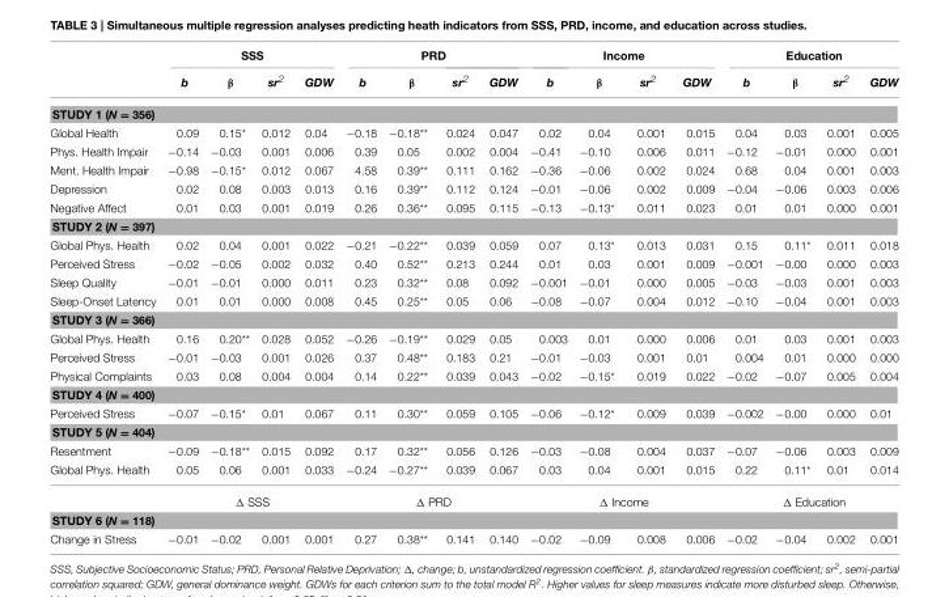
<table><thead><tr><td rowspan="2"></td><td colspan="4">SSS</td><td colspan="4">PRD</td><td colspan="4">Income</td><td colspan="4">Education</td></tr><tr><td>b</td><td>β</td><td>sr<sup>2</sup></td><td>GDW</td><td>b</td><td>β</td><td>sr<sup>2</sup></td><td>GDW</td><td>b</td><td>β</td><td>sr<sup>2</sup></td><td>GDW</td><td>b</td><td>β</td><td>sr<sup>2</sup></td><td>GDW</td></tr></thead><tbody><tr><td colspan="17">STUDY 1 (N = 356)</td></tr><tr><td>Global Health</td><td>0.09</td><td>0.15*</td><td>0.012</td><td>0.04</td><td>−0.18</td><td>−0.18**</td><td>0.024</td><td>0.047</td><td>0.02</td><td>0.04</td><td>0.001</td><td>0.015</td><td>0.04</td><td>0.03</td><td>0.001</td><td>0.005</td></tr><tr><td>Phys. Health Impair</td><td>−0.14</td><td>−0.03</td><td>0.001</td><td>0.006</td><td>0.39</td><td>0.05</td><td>0.002</td><td>0.004</td><td>−0.41</td><td>−0.10</td><td>0.006</td><td>0.011</td><td>−0.12</td><td>−0.01</td><td>0.000</td><td>0.001</td></tr><tr><td>Ment. Health Impair</td><td>−0.98</td><td>−0.15*</td><td>0.012</td><td>0.067</td><td>4.58</td><td>0.39**</td><td>0.111</td><td>0.162</td><td>−0.36</td><td>−0.06</td><td>0.002</td><td>0.024</td><td>0.68</td><td>0.04</td><td>0.001</td><td>0.003</td></tr><tr><td>Depression</td><td>0.02</td><td>0.08</td><td>0.003</td><td>0.013</td><td>0.16</td><td>0.39**</td><td>0.112</td><td>0.124</td><td>−0.01</td><td>−0.06</td><td>0.002</td><td>0.009</td><td>−0.04</td><td>−0.06</td><td>0.003</td><td>0.006</td></tr><tr><td>Negative Affect</td><td>0.01</td><td>0.03</td><td>0.001</td><td>0.019</td><td>0.26</td><td>0.36**</td><td>0.095</td><td>0.115</td><td>−0.13</td><td>−0.13*</td><td>0.011</td><td>0.023</td><td>0.01</td><td>0.01</td><td>0.000</td><td>0.001</td></tr><tr><td colspan="17">STUDY 2 (N = 397)</td></tr><tr><td>Global Phys. Health</td><td>0.02</td><td>0.04</td><td>0.001</td><td>0.022</td><td>−0.21</td><td>−0.22**</td><td>0.039</td><td>0.059</td><td>0.07</td><td>0.13*</td><td>0.013</td><td>0.031</td><td>0.15</td><td>0.11*</td><td>0.011</td><td>0.018</td></tr><tr><td>Perceived Stress</td><td>−0.02</td><td>−0.05</td><td>0.002</td><td>0.032</td><td>0.40</td><td>0.52**</td><td>0.213</td><td>0.244</td><td>0.01</td><td>0.03</td><td>0.001</td><td>0.009</td><td>−0.001</td><td>−0.00</td><td>0.000</td><td>0.003</td></tr><tr><td>Sleep Quality</td><td>−0.01</td><td>−0.01</td><td>0.000</td><td>0.011</td><td>0.23</td><td>0.32**</td><td>0.08</td><td>0.092</td><td>−0.001</td><td>−0.01</td><td>0.000</td><td>0.005</td><td>−0.03</td><td>−0.03</td><td>0.001</td><td>0.003</td></tr><tr><td>Sleep-Onset Latency</td><td>0.01</td><td>0.01</td><td>0.000</td><td>0.008</td><td>0.45</td><td>0.25**</td><td>0.05</td><td>0.06</td><td>−0.08</td><td>−0.07</td><td>0.004</td><td>0.012</td><td>−0.10</td><td>−0.04</td><td>0.001</td><td>0.003</td></tr><tr><td colspan="17">STUDY 3 (N = 366)</td></tr><tr><td>Global Phys. Health</td><td>0.16</td><td>0.20**</td><td>0.028</td><td>0.052</td><td>−0.26</td><td>−0.19**</td><td>0.029</td><td>0.05</td><td>0.003</td><td>0.01</td><td>0.000</td><td>0.006</td><td>0.01</td><td>0.03</td><td>0.001</td><td>0.003</td></tr><tr><td>Perceived Stress</td><td>−0.01</td><td>−0.03</td><td>0.001</td><td>0.026</td><td>0.37</td><td>0.48**</td><td>0.183</td><td>0.21</td><td>−0.01</td><td>−0.03</td><td>0.001</td><td>0.01</td><td>0.004</td><td>0.01</td><td>0.000</td><td>0.000</td></tr><tr><td>Physical Complaints</td><td>0.03</td><td>0.08</td><td>0.004</td><td>0.004</td><td>0.14</td><td>0.22**</td><td>0.039</td><td>0.043</td><td>−0.02</td><td>−0.15*</td><td>0.019</td><td>0.022</td><td>−0.02</td><td>−0.07</td><td>0.005</td><td>0.004</td></tr><tr><td colspan="17">STUDY 4 (N = 400)</td></tr><tr><td>Perceived Stress</td><td>−0.07</td><td>−0.15*</td><td>0.01</td><td>0.067</td><td>0.11</td><td>0.30**</td><td>0.059</td><td>0.105</td><td>−0.06</td><td>−0.12*</td><td>0.009</td><td>0.039</td><td>−0.002</td><td>−0.00</td><td>0.000</td><td>0.01</td></tr><tr><td colspan="17">STUDY 5 (N = 404)</td></tr><tr><td>Resentment</td><td>−0.09</td><td>−0.18**</td><td>0.015</td><td>0.092</td><td>0.17</td><td>0.32**</td><td>0.056</td><td>0.126</td><td>−0.03</td><td>−0.08</td><td>0.004</td><td>0.037</td><td>−0.07</td><td>−0.06</td><td>0.003</td><td>0.009</td></tr><tr><td rowspan="2">Global Phys. Health</td><td>0.05</td><td>0.06</td><td>0.001</td><td>0.033</td><td>−0.24</td><td>−0.27**</td><td>0.039</td><td>0.067</td><td>0.03</td><td>0.04</td><td>0.001</td><td>0.015</td><td>0.22</td><td>0.11*</td><td>0.01</td><td>0.014</td></tr><tr><td colspan="4">Δ SSS</td><td colspan="4">Δ PRD</td><td colspan="4">Δ Income</td><td colspan="4">Δ Education</td></tr><tr><td colspan="17">STUDY 6 (N = 118)</td></tr><tr><td>Change in Stress</td><td>−0.01</td><td>−0.02</td><td>0.001</td><td>0.001</td><td>0.27</td><td>0.38**</td><td>0.141</td><td>0.140</td><td>−0.02</td><td>−0.09</td><td>0.008</td><td>0.006</td><td>−0.02</td><td>−0.04</td><td>0.002</td><td>0.001</td></tr></tbody></table>